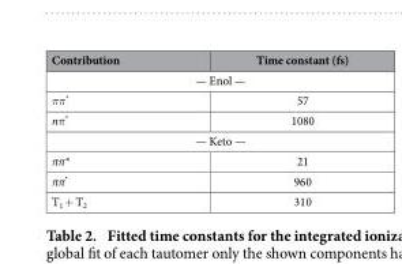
<table><thead><tr><td>Contribution</td><td>Time constant (fs)</td></tr></thead><tbody><tr><td colspan="2">— Enol —</td></tr><tr><td>ππ*</td><td>57</td></tr><tr><td>nπ*</td><td>1080</td></tr><tr><td colspan="2">— Keto —</td></tr><tr><td>ππ*</td><td>21</td></tr><tr><td>ππ*</td><td>960</td></tr><tr><td>T<sub>1</sub> + T<sub>2</sub></td><td>310</td></tr></tbody></table>